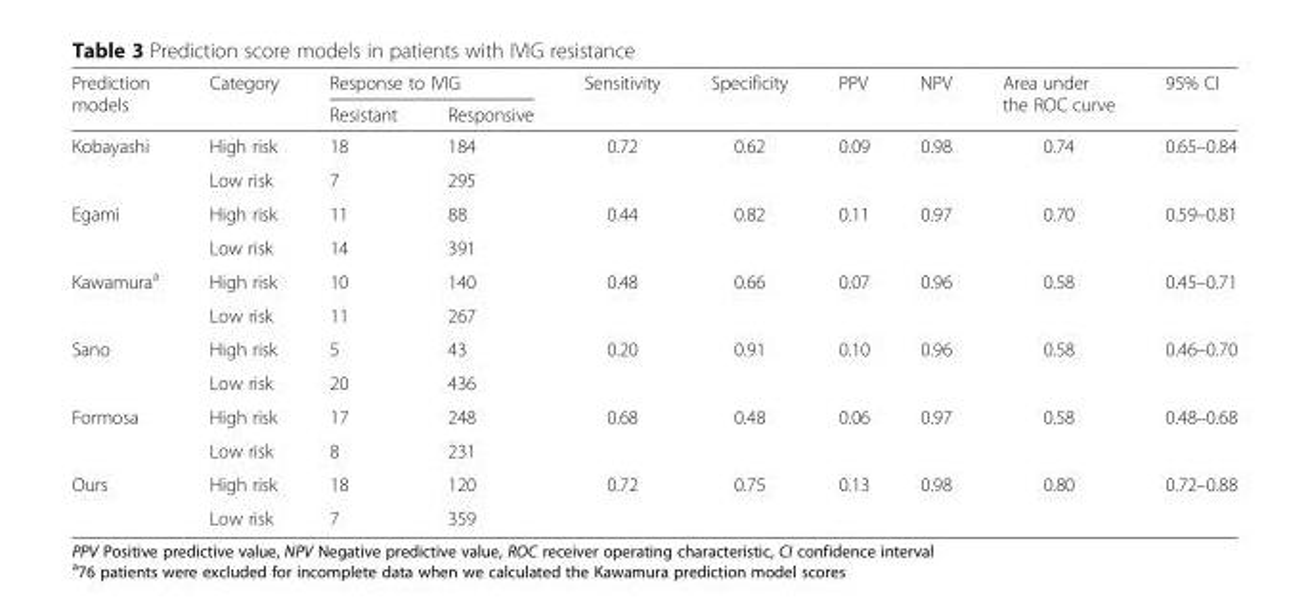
<table><thead><tr><td rowspan="2">Prediction models</td><td rowspan="2">Category</td><td colspan="2">Response to IVIG</td><td rowspan="2">Sensitivity</td><td rowspan="2">Specificity</td><td rowspan="2">PPV</td><td rowspan="2">NPV</td><td rowspan="2">Area under the ROC curve</td><td rowspan="2">95% CI</td></tr><tr><td>Resistant</td><td>Responsive</td></tr></thead><tbody><tr><td rowspan="2">Kobayashi</td><td>High risk</td><td>18</td><td>184</td><td rowspan="2">0.72</td><td rowspan="2">0.62</td><td rowspan="2">0.09</td><td rowspan="2">0.98</td><td rowspan="2">0.74</td><td rowspan="2">0.65–0.84</td></tr><tr><td>Low risk</td><td>7</td><td>295</td></tr><tr><td rowspan="2">Egami</td><td>High risk</td><td>11</td><td>88</td><td rowspan="2">0.44</td><td rowspan="2">0.82</td><td rowspan="2">0.11</td><td rowspan="2">0.97</td><td rowspan="2">0.70</td><td rowspan="2">0.59–0.81</td></tr><tr><td>Low risk</td><td>14</td><td>391</td></tr><tr><td rowspan="2">Kawamura<sup>a</sup></td><td>High risk</td><td>10</td><td>140</td><td rowspan="2">0.48</td><td rowspan="2">0.66</td><td rowspan="2">0.07</td><td rowspan="2">0.96</td><td rowspan="2">0.58</td><td rowspan="2">0.45–0.71</td></tr><tr><td>Low risk</td><td>11</td><td>267</td></tr><tr><td rowspan="2">Sano</td><td>High risk</td><td>5</td><td>43</td><td rowspan="2">0.20</td><td rowspan="2">0.91</td><td rowspan="2">0.10</td><td rowspan="2">0.96</td><td rowspan="2">0.58</td><td rowspan="2">0.46–0.70</td></tr><tr><td>Low risk</td><td>20</td><td>436</td></tr><tr><td rowspan="2">Formosa</td><td>High risk</td><td>17</td><td>248</td><td rowspan="2">0.68</td><td rowspan="2">0.48</td><td rowspan="2">0.06</td><td rowspan="2">0.97</td><td rowspan="2">0.58</td><td rowspan="2">0.48–0.68</td></tr><tr><td>Low risk</td><td>8</td><td>231</td></tr><tr><td rowspan="2">Ours</td><td>High risk</td><td>18</td><td>120</td><td rowspan="2">0.72</td><td rowspan="2">0.75</td><td rowspan="2">0.13</td><td rowspan="2">0.98</td><td rowspan="2">0.80</td><td rowspan="2">0.72–0.88</td></tr><tr><td>Low risk</td><td>7</td><td>359</td></tr></tbody></table>